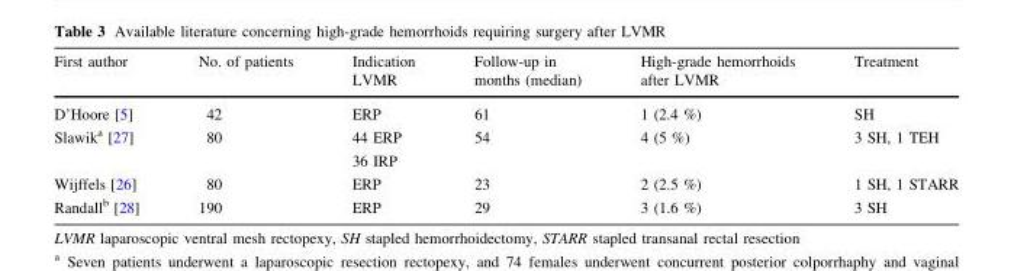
<table><thead><tr><td>First author</td><td>No. of patients</td><td>Indication LVMR</td><td>Follow-up in months (median)</td><td>High-grade hemorrhoids after LVMR</td><td>Treatment</td></tr></thead><tbody><tr><td>D’Hoore [5]</td><td>42</td><td>ERP</td><td>61</td><td>1 (2.4 %)</td><td>SH</td></tr><tr><td>Slawik<sup>a</sup> [27]</td><td>80</td><td>44 ERP 36 IRP</td><td>54</td><td>4 (5 %)</td><td>3 SH, 1 TEH</td></tr><tr><td>Wijffels [26]</td><td>80</td><td>ERP</td><td>23</td><td>2 (2.5 %)</td><td>1 SH, 1 STARR</td></tr><tr><td>Randall<sup>b</sup> [28]</td><td>190</td><td>ERP</td><td>29</td><td>3 (1.6 %)</td><td>3 SH</td></tr></tbody></table>